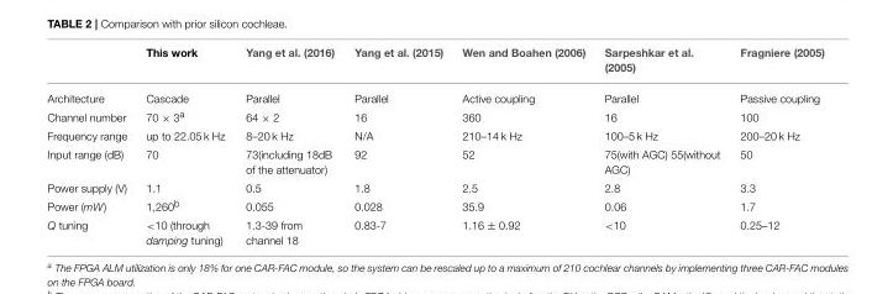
<table><thead><tr><td></td><td>This work</td><td>Yang et al. (2016)</td><td>Yang et al. (2015)</td><td>Wen and Boahen (2006)</td><td>Sarpeshkar et al. (2005)</td><td>Fragniere (2005)</td></tr></thead><tbody><tr><td>Architecture</td><td>Cascade</td><td>Parallel</td><td>Parallel</td><td>Active coupling</td><td>Parallel</td><td>Passive coupling</td></tr><tr><td>Channel number</td><td>70 × 3<sup>a</sup></td><td>64 × 2</td><td>16</td><td>360</td><td>16</td><td>100</td></tr><tr><td>Frequency range</td><td>up to 22.05 k Hz</td><td>8–20 k Hz</td><td>N/A</td><td>210–14 k Hz</td><td>100–5 k Hz</td><td>200–20 k Hz</td></tr><tr><td>Input range (dB)</td><td>70</td><td>73(including 18dB of the attenuator)</td><td>92</td><td>52</td><td>75(with AGC) 55(without AGC)</td><td>50</td></tr><tr><td>Power supply (V)</td><td>1.1</td><td>0.5</td><td>1.8</td><td>2.5</td><td>2.8</td><td>3.3</td></tr><tr><td>Power (mW)</td><td>1,260<sup>b</sup></td><td>0.055</td><td>0.028</td><td>35.9</td><td>0.06</td><td>1.7</td></tr><tr><td>Q tuning</td><td>&lt;10 (through damping tuning)</td><td>1.3-39 from channel 18</td><td>0.83-7</td><td>1.16 ± 0.92</td><td>&lt;10</td><td>0.25–12</td></tr></tbody></table>